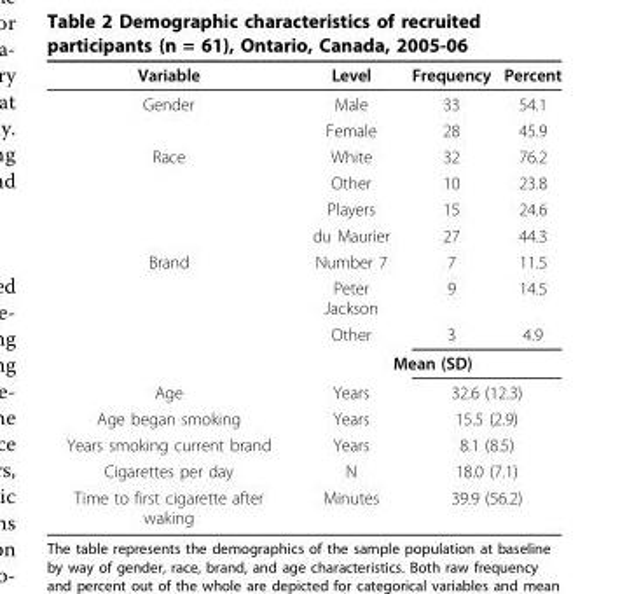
<table><thead><tr><td>Variable</td><td>Level</td><td>Frequency</td><td>Percent</td></tr></thead><tbody><tr><td rowspan="2">Gender</td><td>Male</td><td>33</td><td>54.1</td></tr><tr><td>Female</td><td>28</td><td>45.9</td></tr><tr><td rowspan="4">Race</td><td>White</td><td>32</td><td>76.2</td></tr><tr><td>Other</td><td>10</td><td>23.8</td></tr><tr><td>Players</td><td>15</td><td>24.6</td></tr><tr><td>du Maurier</td><td>27</td><td>44.3</td></tr><tr><td rowspan="4">Brand</td><td>Number 7</td><td>7</td><td>11.5</td></tr><tr><td>Peter Jackson</td><td>9</td><td>14.5</td></tr><tr><td>Other</td><td>3</td><td>4.9</td></tr><tr><td colspan="3">Mean (SD)</td></tr><tr><td>Age</td><td>Years</td><td colspan="2">32.6 (12.3)</td></tr><tr><td>Age began smoking</td><td>Years</td><td colspan="2">15.5 (2.9)</td></tr><tr><td>Years smoking current brand</td><td>Years</td><td colspan="2">8.1 (8.5)</td></tr><tr><td>Cigarettes per day</td><td>N</td><td colspan="2">18.0 (7.1)</td></tr><tr><td>Time to first cigarette after waking</td><td>Minutes</td><td colspan="2">39.9 (56.2)</td></tr></tbody></table>